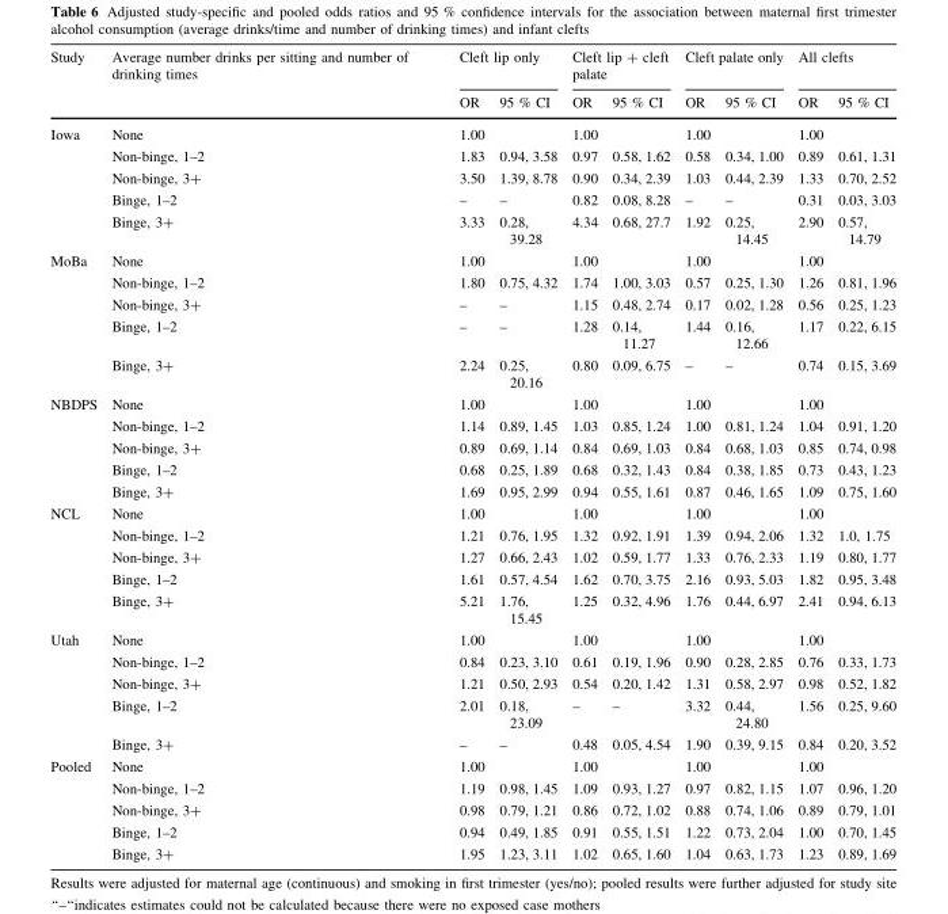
<table><thead><tr><td rowspan="2">Study</td><td rowspan="2">Average number drinks per sitting and number of drinking times</td><td colspan="2">Cleft lip only</td><td colspan="2">Cleft lip + cleft palate</td><td colspan="2">Cleft palate only</td><td colspan="2">All clefts</td></tr><tr><td>OR</td><td>95 % CI</td><td>OR</td><td>95 % CI</td><td>OR</td><td>95 % CI</td><td>OR</td><td>95 % CI</td></tr></thead><tbody><tr><td rowspan="5">Iowa</td><td>None</td><td>1.00</td><td></td><td>1.00</td><td></td><td>1.00</td><td></td><td>1.00</td><td></td></tr><tr><td>Non-binge, 1–2</td><td>1.83</td><td>0.94, 3.58</td><td>0.97</td><td>0.58, 1.62</td><td>0.58</td><td>0.34, 1.00</td><td>0.89</td><td>0.61, 1.31</td></tr><tr><td>Non-binge, 3+</td><td>3.50</td><td>1.39, 8.78</td><td>0.90</td><td>0.34, 2.39</td><td>1.03</td><td>0.44, 2.39</td><td>1.33</td><td>0.70, 2.52</td></tr><tr><td>Binge, 1–2</td><td>–</td><td>–</td><td>0.82</td><td>0.08, 8.28</td><td>–</td><td>–</td><td>0.31</td><td>0.03, 3.03</td></tr><tr><td>Binge, 3+</td><td>3.33</td><td>0.28, 39.28</td><td>4.34</td><td>0.68, 27.7</td><td>1.92</td><td>0.25, 14.45</td><td>2.90</td><td>0.57, 14.79</td></tr><tr><td rowspan="5">MoBa</td><td>None</td><td>1.00</td><td></td><td>1.00</td><td></td><td>1.00</td><td></td><td>1.00</td><td></td></tr><tr><td>Non-binge, 1–2</td><td>1.80</td><td>0.75, 4.32</td><td>1.74</td><td>1.00, 3.03</td><td>0.57</td><td>0.25, 1.30</td><td>1.26</td><td>0.81, 1.96</td></tr><tr><td>Non-binge, 3+</td><td>–</td><td>–</td><td>1.15</td><td>0.48, 2.74</td><td>0.17</td><td>0.02, 1.28</td><td>0.56</td><td>0.25, 1.23</td></tr><tr><td>Binge, 1–2</td><td>–</td><td>–</td><td>1.28</td><td>0.14, 11.27</td><td>1.44</td><td>0.16, 12.66</td><td>1.17</td><td>0.22, 6.15</td></tr><tr><td>Binge, 3+</td><td>2.24</td><td>0.25, 20.16</td><td>0.80</td><td>0.09, 6.75</td><td>–</td><td>–</td><td>0.74</td><td>0.15, 3.69</td></tr><tr><td rowspan="5">NBDPS</td><td>None</td><td>1.00</td><td></td><td>1.00</td><td></td><td>1.00</td><td></td><td>1.00</td><td></td></tr><tr><td>Non-binge, 1–2</td><td>1.14</td><td>0.89, 1.45</td><td>1.03</td><td>0.85, 1.24</td><td>1.00</td><td>0.81, 1.24</td><td>1.04</td><td>0.91, 1.20</td></tr><tr><td>Non-binge, 3+</td><td>0.89</td><td>0.69, 1.14</td><td>0.84</td><td>0.69, 1.03</td><td>0.84</td><td>0.68, 1.03</td><td>0.85</td><td>0.74, 0.98</td></tr><tr><td>Binge, 1–2</td><td>0.68</td><td>0.25, 1.89</td><td>0.68</td><td>0.32, 1.43</td><td>0.84</td><td>0.38, 1.85</td><td>0.73</td><td>0.43, 1.23</td></tr><tr><td>Binge, 3+</td><td>1.69</td><td>0.95, 2.99</td><td>0.94</td><td>0.55, 1.61</td><td>0.87</td><td>0.46, 1.65</td><td>1.09</td><td>0.75, 1.60</td></tr><tr><td rowspan="5">NCL</td><td>None</td><td>1.00</td><td></td><td>1.00</td><td></td><td>1.00</td><td></td><td>1.00</td><td></td></tr><tr><td>Non-binge, 1–2</td><td>1.21</td><td>0.76, 1.95</td><td>1.32</td><td>0.92, 1.91</td><td>1.39</td><td>0.94, 2.06</td><td>1.32</td><td>1.0, 1.75</td></tr><tr><td>Non-binge, 3+</td><td>1.27</td><td>0.66, 2.43</td><td>1.02</td><td>0.59, 1.77</td><td>1.33</td><td>0.76, 2.33</td><td>1.19</td><td>0.80, 1.77</td></tr><tr><td>Binge, 1–2</td><td>1.61</td><td>0.57, 4.54</td><td>1.62</td><td>0.70, 3.75</td><td>2.16</td><td>0.93, 5.03</td><td>1.82</td><td>0.95, 3.48</td></tr><tr><td>Binge, 3+</td><td>5.21</td><td>1.76, 15.45</td><td>1.25</td><td>0.32, 4.96</td><td>1.76</td><td>0.44, 6.97</td><td>2.41</td><td>0.94, 6.13</td></tr><tr><td rowspan="5">Utah</td><td>None</td><td>1.00</td><td></td><td>1.00</td><td></td><td>1.00</td><td></td><td>1.00</td><td></td></tr><tr><td>Non-binge, 1–2</td><td>0.84</td><td>0.23, 3.10</td><td>0.61</td><td>0.19, 1.96</td><td>0.90</td><td>0.28, 2.85</td><td>0.76</td><td>0.33, 1.73</td></tr><tr><td>Non-binge, 3+</td><td>1.21</td><td>0.50, 2.93</td><td>0.54</td><td>0.20, 1.42</td><td>1.31</td><td>0.58, 2.97</td><td>0.98</td><td>0.52, 1.82</td></tr><tr><td>Binge, 1–2</td><td>2.01</td><td>0.18, 23.09</td><td>–</td><td>–</td><td>3.32</td><td>0.44, 24.80</td><td>1.56</td><td>0.25, 9.60</td></tr><tr><td>Binge, 3+</td><td>–</td><td>–</td><td>0.48</td><td>0.05, 4.54</td><td>1.90</td><td>0.39, 9.15</td><td>0.84</td><td>0.20, 3.52</td></tr><tr><td rowspan="5">Pooled</td><td>None</td><td>1.00</td><td></td><td>1.00</td><td></td><td>1.00</td><td></td><td>1.00</td><td></td></tr><tr><td>Non-binge, 1–2</td><td>1.19</td><td>0.98, 1.45</td><td>1.09</td><td>0.93, 1.27</td><td>0.97</td><td>0.82, 1.15</td><td>1.07</td><td>0.96, 1.20</td></tr><tr><td>Non-binge, 3+</td><td>0.98</td><td>0.79, 1.21</td><td>0.86</td><td>0.72, 1.02</td><td>0.88</td><td>0.74, 1.06</td><td>0.89</td><td>0.79, 1.01</td></tr><tr><td>Binge, 1–2</td><td>0.94</td><td>0.49, 1.85</td><td>0.91</td><td>0.55, 1.51</td><td>1.22</td><td>0.73, 2.04</td><td>1.00</td><td>0.70, 1.45</td></tr><tr><td>Binge, 3+</td><td>1.95</td><td>1.23, 3.11</td><td>1.02</td><td>0.65, 1.60</td><td>1.04</td><td>0.63, 1.73</td><td>1.23</td><td>0.89, 1.69</td></tr></tbody></table>